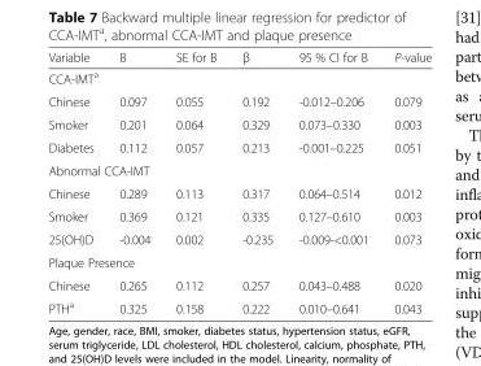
<table><thead><tr><td>Variable</td><td>B</td><td>SE for B</td><td>β</td><td>95 % CI for B</td><td>P-value</td></tr></thead><tbody><tr><td colspan="6">CCA-IMT<sup>a</sup></td></tr><tr><td>Chinese</td><td>0.097</td><td>0.055</td><td>0.192</td><td>-0.012–0.206</td><td>0.079</td></tr><tr><td>Smoker</td><td>0.201</td><td>0.064</td><td>0.329</td><td>0.073–0.330</td><td>0.003</td></tr><tr><td>Diabetes</td><td>0.112</td><td>0.057</td><td>0.213</td><td>-0.001–0.225</td><td>0.051</td></tr><tr><td colspan="6">Abnormal CCA-IMT</td></tr><tr><td>Chinese</td><td>0.289</td><td>0.113</td><td>0.317</td><td>0.064–0.514</td><td>0.012</td></tr><tr><td>Smoker</td><td>0.369</td><td>0.121</td><td>0.335</td><td>0.127–0.610</td><td>0.003</td></tr><tr><td>25(OH)D</td><td>-0.004</td><td>0.002</td><td>-0.235</td><td>-0.009-&lt;0.001</td><td>0.073</td></tr><tr><td colspan="6">Plaque Presence</td></tr><tr><td>Chinese</td><td>0.265</td><td>0.112</td><td>0.257</td><td>0.043–0.488</td><td>0.020</td></tr><tr><td>PTH<sup>a</sup></td><td>0.325</td><td>0.158</td><td>0.222</td><td>0.010–0.641</td><td>0.043</td></tr></tbody></table>